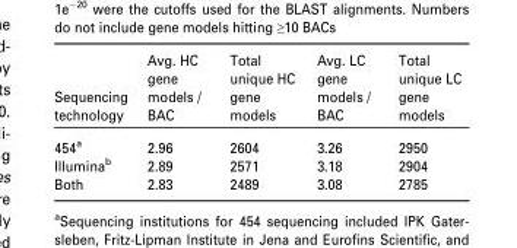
<table><thead><tr><td>Sequencing technology</td><td>Avg. HC gene models / BAC</td><td>Total unique HC gene models</td><td>Avg. LC gene models / BAC</td><td>Total unique LC gene models</td></tr></thead><tbody><tr><td>454<sup>a</sup></td><td>2.96</td><td>2604</td><td>3.26</td><td>2950</td></tr><tr><td>Illumina<sup>b</sup></td><td>2.89</td><td>2571</td><td>3.18</td><td>2904</td></tr><tr><td>Both</td><td>2.83</td><td>2489</td><td>3.08</td><td>2785</td></tr></tbody></table>